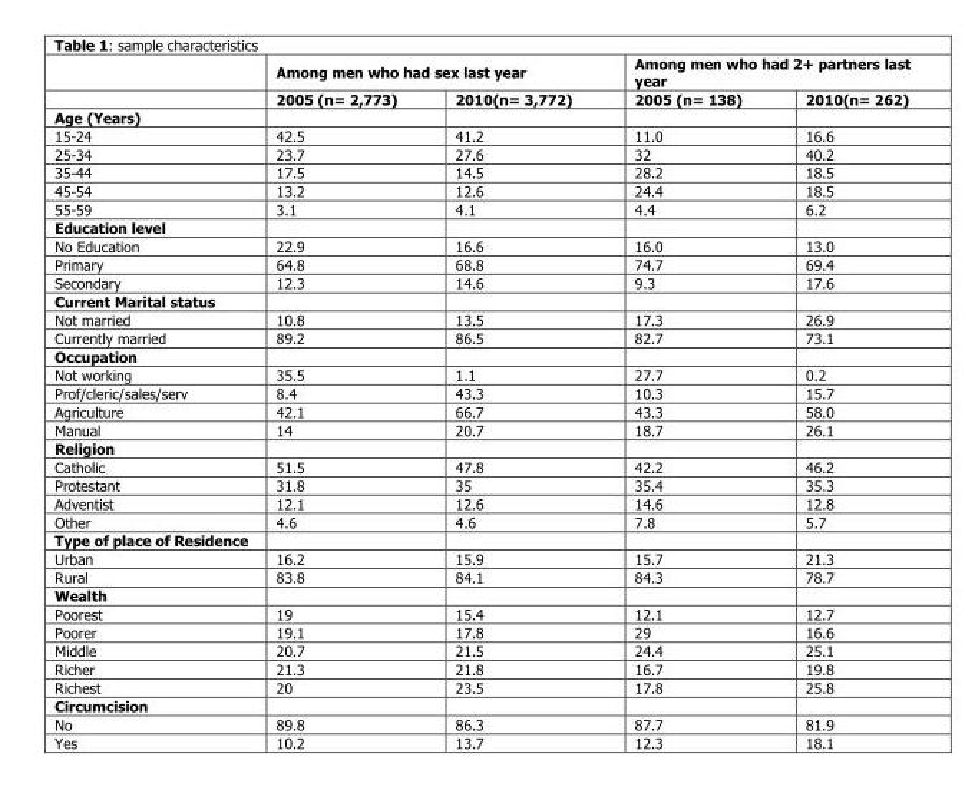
<table><thead><tr><td rowspan="2"></td><td colspan="2">Among men who had sex last year</td><td colspan="2">Among men who had 2+ partners last year</td></tr><tr><td>2005 (n= 2,773)</td><td>2010(n= 3,772)</td><td>2005 (n= 138)</td><td>2010(n= 262)</td></tr></thead><tbody><tr><td colspan="5">Age (Years)</td></tr><tr><td>15-24</td><td>42.5</td><td>41.2</td><td>11.0</td><td>16.6</td></tr><tr><td>25-34</td><td>23.7</td><td>27.6</td><td>32</td><td>40.2</td></tr><tr><td>35-44</td><td>17.5</td><td>14.5</td><td>28.2</td><td>18.5</td></tr><tr><td>45-54</td><td>13.2</td><td>12.6</td><td>24.4</td><td>18.5</td></tr><tr><td>55-59</td><td>3.1</td><td>4.1</td><td>4.4</td><td>6.2</td></tr><tr><td colspan="5">Education level</td></tr><tr><td>No Education</td><td>22.9</td><td>16.6</td><td>16.0</td><td>13.0</td></tr><tr><td>Primary</td><td>64.8</td><td>68.8</td><td>74.7</td><td>69.4</td></tr><tr><td>Secondary</td><td>12.3</td><td>14.6</td><td>9.3</td><td>17.6</td></tr><tr><td colspan="5">Current Marital status</td></tr><tr><td>Not married</td><td>10.8</td><td>13.5</td><td>17.3</td><td>26.9</td></tr><tr><td>Currently married</td><td>89.2</td><td>86.5</td><td>82.7</td><td>73.1</td></tr><tr><td colspan="5">Occupation</td></tr><tr><td>Not working</td><td>35.5</td><td>1.1</td><td>27.7</td><td>0.2</td></tr><tr><td>Prof/cleric/sales/serv</td><td>8.4</td><td>43.3</td><td>10.3</td><td>15.7</td></tr><tr><td>Agriculture</td><td>42.1</td><td>66.7</td><td>43.3</td><td>58.0</td></tr><tr><td>Manual</td><td>14</td><td>20.7</td><td>18.7</td><td>26.1</td></tr><tr><td colspan="5">Religion</td></tr><tr><td>Catholic</td><td>51.5</td><td>47.8</td><td>42.2</td><td>46.2</td></tr><tr><td>Protestant</td><td>31.8</td><td>35</td><td>35.4</td><td>35.3</td></tr><tr><td>Adventist</td><td>12.1</td><td>12.6</td><td>14.6</td><td>12.8</td></tr><tr><td>Other</td><td>4.6</td><td>4.6</td><td>7.8</td><td>5.7</td></tr><tr><td colspan="5">Type of place of Residence</td></tr><tr><td>Urban</td><td>16.2</td><td>15.9</td><td>15.7</td><td>21.3</td></tr><tr><td>Rural</td><td>83.8</td><td>84.1</td><td>84.3</td><td>78.7</td></tr><tr><td colspan="5">Wealth</td></tr><tr><td>Poorest</td><td>19</td><td>15.4</td><td>12.1</td><td>12.7</td></tr><tr><td>Poorer</td><td>19.1</td><td>17.8</td><td>29</td><td>16.6</td></tr><tr><td>Middle</td><td>20.7</td><td>21.5</td><td>24.4</td><td>25.1</td></tr><tr><td>Richer</td><td>21.3</td><td>21.8</td><td>16.7</td><td>19.8</td></tr><tr><td>Richest</td><td>20</td><td>23.5</td><td>17.8</td><td>25.8</td></tr><tr><td colspan="5">Circumcision</td></tr><tr><td>No</td><td>89.8</td><td>86.3</td><td>87.7</td><td>81.9</td></tr><tr><td>Yes</td><td>10.2</td><td>13.7</td><td>12.3</td><td>18.1</td></tr></tbody></table>